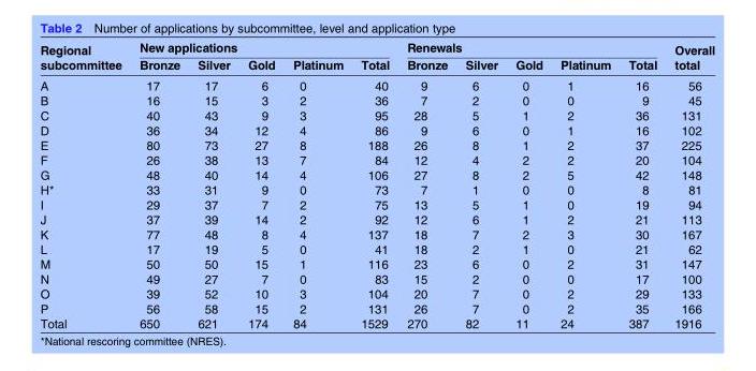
<table><thead><tr><td rowspan="2">Regional subcommittee</td><td colspan="5">New applications</td><td colspan="5">Renewals</td><td rowspan="2">Overall total</td></tr><tr><td>Bronze</td><td>Silver</td><td>Gold</td><td>Platinum</td><td>Total</td><td>Bronze</td><td>Silver</td><td>Gold</td><td>Platinum</td><td>Total</td></tr></thead><tbody><tr><td>A</td><td>17</td><td>17</td><td>6</td><td>0</td><td>40</td><td>9</td><td>6</td><td>0</td><td>1</td><td>16</td><td>56</td></tr><tr><td>B</td><td>16</td><td>15</td><td>3</td><td>2</td><td>36</td><td>7</td><td>2</td><td>0</td><td>0</td><td>9</td><td>45</td></tr><tr><td>C</td><td>40</td><td>43</td><td>9</td><td>3</td><td>95</td><td>28</td><td>5</td><td>1</td><td>2</td><td>36</td><td>131</td></tr><tr><td>D</td><td>36</td><td>34</td><td>12</td><td>4</td><td>86</td><td>9</td><td>6</td><td>0</td><td>1</td><td>16</td><td>102</td></tr><tr><td>E</td><td>80</td><td>73</td><td>27</td><td>8</td><td>188</td><td>26</td><td>8</td><td>1</td><td>2</td><td>37</td><td>225</td></tr><tr><td>F</td><td>26</td><td>38</td><td>13</td><td>7</td><td>84</td><td>12</td><td>4</td><td>2</td><td>2</td><td>20</td><td>104</td></tr><tr><td>G</td><td>48</td><td>40</td><td>14</td><td>4</td><td>106</td><td>27</td><td>8</td><td>2</td><td>5</td><td>42</td><td>148</td></tr><tr><td>H*</td><td>33</td><td>31</td><td>9</td><td>0</td><td>73</td><td>7</td><td>1</td><td>0</td><td>0</td><td>8</td><td>81</td></tr><tr><td>I</td><td>29</td><td>37</td><td>7</td><td>2</td><td>75</td><td>13</td><td>5</td><td>1</td><td>0</td><td>19</td><td>94</td></tr><tr><td>J</td><td>37</td><td>39</td><td>14</td><td>2</td><td>92</td><td>12</td><td>6</td><td>1</td><td>2</td><td>21</td><td>113</td></tr><tr><td>K</td><td>77</td><td>48</td><td>8</td><td>4</td><td>137</td><td>18</td><td>7</td><td>2</td><td>3</td><td>30</td><td>167</td></tr><tr><td>L</td><td>17</td><td>19</td><td>5</td><td>0</td><td>41</td><td>18</td><td>2</td><td>1</td><td>0</td><td>21</td><td>62</td></tr><tr><td>M</td><td>50</td><td>50</td><td>15</td><td>1</td><td>116</td><td>23</td><td>6</td><td>0</td><td>2</td><td>31</td><td>147</td></tr><tr><td>N</td><td>49</td><td>27</td><td>7</td><td>0</td><td>83</td><td>15</td><td>2</td><td>0</td><td>0</td><td>17</td><td>100</td></tr><tr><td>O</td><td>39</td><td>52</td><td>10</td><td>3</td><td>104</td><td>20</td><td>7</td><td>0</td><td>2</td><td>29</td><td>133</td></tr><tr><td>P</td><td>56</td><td>58</td><td>15</td><td>2</td><td>131</td><td>26</td><td>7</td><td>0</td><td>2</td><td>35</td><td>166</td></tr><tr><td>Total</td><td>650</td><td>621</td><td>174</td><td>84</td><td>1529</td><td>270</td><td>82</td><td>11</td><td>24</td><td>387</td><td>1916</td></tr></tbody></table>